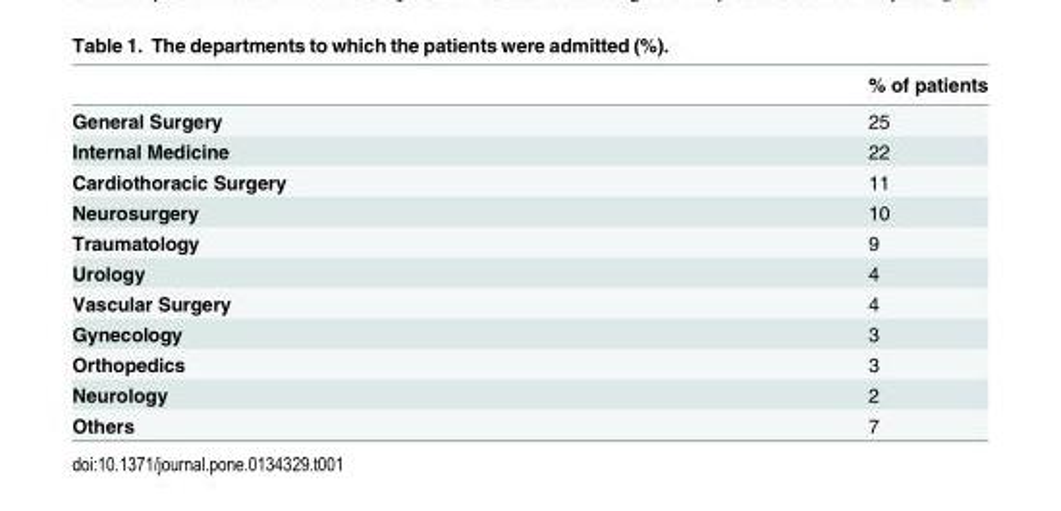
<table><thead><tr><td></td><td>% of patients</td></tr></thead><tbody><tr><td>General Surgery</td><td>25</td></tr><tr><td>Internal Medicine</td><td>22</td></tr><tr><td>Cardiothoracic Surgery</td><td>11</td></tr><tr><td>Neurosurgery</td><td>10</td></tr><tr><td>Traumatology</td><td>9</td></tr><tr><td>Urology</td><td>4</td></tr><tr><td>Vascular Surgery</td><td>4</td></tr><tr><td>Gynecology</td><td>3</td></tr><tr><td>Orthopedics</td><td>3</td></tr><tr><td>Neurology</td><td>2</td></tr><tr><td>Others</td><td>7</td></tr></tbody></table>